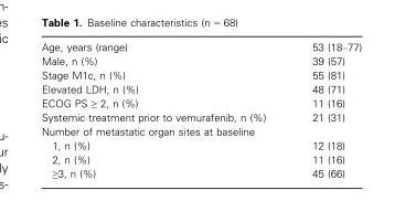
<table><tbody><tr><td>Age, years (range)</td><td>53 (18–77)</td></tr><tr><td>Male, n (%)</td><td>39 (57)</td></tr><tr><td>Stage M1c, n (%)</td><td>55 (81)</td></tr><tr><td>Elevated LDH, n (%)</td><td>48 (71)</td></tr><tr><td>ECOG PS ≥ 2, n (%)</td><td>11 (16)</td></tr><tr><td>Systemic treatment prior to vemurafenib, n (%)</td><td>21 (31)</td></tr><tr><td colspan="2">Number of metastatic organ sites at baseline</td></tr><tr><td>1, n (%)</td><td>12 (18)</td></tr><tr><td>2, n (%)</td><td>11 (16)</td></tr><tr><td>≥3, n (%)</td><td>45 (66)</td></tr></tbody></table>